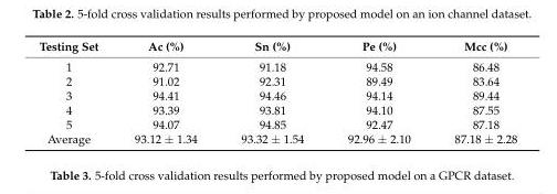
<table><thead><tr><td>Testing Set</td><td>Ac (%)</td><td>Sn (%)</td><td>Pe (%)</td><td>Mcc (%)</td></tr></thead><tbody><tr><td>1</td><td>92.71</td><td>91.18</td><td>94.58</td><td>86.48</td></tr><tr><td>2</td><td>91.02</td><td>92.31</td><td>89.49</td><td>83.64</td></tr><tr><td>3</td><td>94.41</td><td>94.46</td><td>94.14</td><td>89.44</td></tr><tr><td>4</td><td>93.39</td><td>93.81</td><td>94.10</td><td>87.55</td></tr><tr><td>5</td><td>94.07</td><td>94.85</td><td>92.47</td><td>87.18</td></tr><tr><td>Average</td><td>93.12 ± 1.34</td><td>93.32 ± 1.54</td><td>92.96 ± 2.10</td><td>87.18 ± 2.28</td></tr></tbody></table>